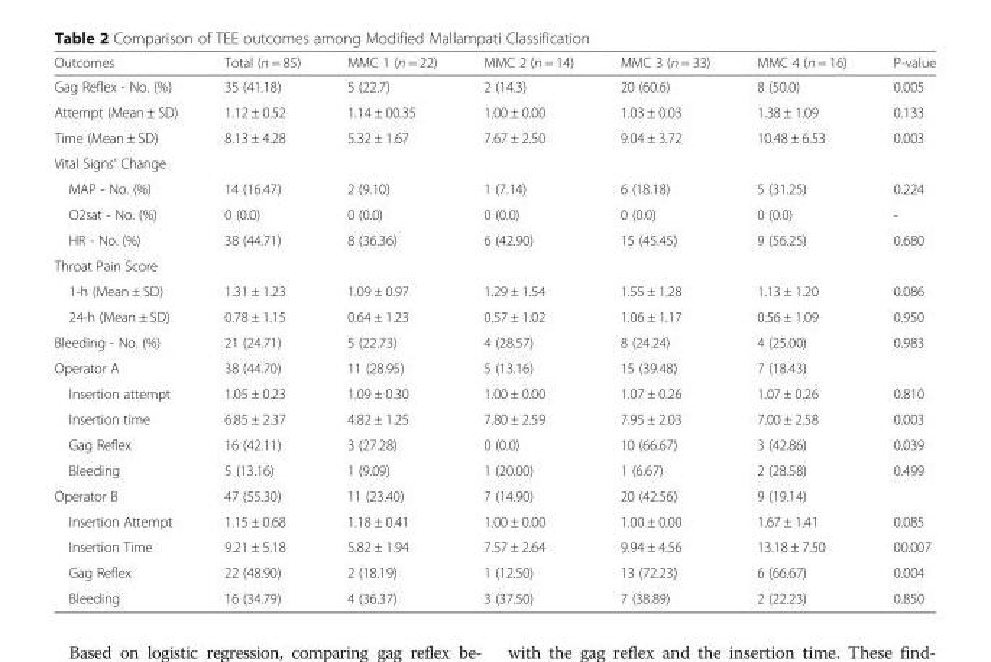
<table><thead><tr><td>Outcomes</td><td>Total (n = 85)</td><td>MMC 1 (n = 22)</td><td>MMC 2 (n = 14)</td><td>MMC 3 (n = 33)</td><td>MMC 4 (n = 16)</td><td>P-value</td></tr></thead><tbody><tr><td>Gag Reflex - No. (%)</td><td>35 (41.18)</td><td>5 (22.7)</td><td>2 (14.3)</td><td>20 (60.6)</td><td>8 (50.0)</td><td>0.005</td></tr><tr><td>Attempt (Mean ± SD)</td><td>1.12 ± 0.52</td><td>1.14 ± 00.35</td><td>1.00 ± 0.00</td><td>1.03 ± 0.03</td><td>1.38 ± 1.09</td><td>0.133</td></tr><tr><td>Time (Mean ± SD)</td><td>8.13 ± 4.28</td><td>5.32 ± 1.67</td><td>7.67 ± 2.50</td><td>9.04 ± 3.72</td><td>10.48 ± 6.53</td><td>0.003</td></tr><tr><td colspan="7">Vital Signs’ Change</td></tr><tr><td>MAP - No. (%)</td><td>14 (16.47)</td><td>2 (9.10)</td><td>1 (7.14)</td><td>6 (18.18)</td><td>5 (31.25)</td><td>0.224</td></tr><tr><td>O2sat - No. (%)</td><td>0 (0.0)</td><td>0 (0.0)</td><td>0 (0.0)</td><td>0 (0.0)</td><td>0 (0.0)</td><td>-</td></tr><tr><td>HR - No. (%)</td><td>38 (44.71)</td><td>8 (36.36)</td><td>6 (42.90)</td><td>15 (45.45)</td><td>9 (56.25)</td><td>0.680</td></tr><tr><td colspan="7">Throat Pain Score</td></tr><tr><td>1-h (Mean ± SD)</td><td>1.31 ± 1.23</td><td>1.09 ± 0.97</td><td>1.29 ± 1.54</td><td>1.55 ± 1.28</td><td>1.13 ± 1.20</td><td>0.086</td></tr><tr><td>24-h (Mean ± SD)</td><td>0.78 ± 1.15</td><td>0.64 ± 1.23</td><td>0.57 ± 1.02</td><td>1.06 ± 1.17</td><td>0.56 ± 1.09</td><td>0.950</td></tr><tr><td>Bleeding - No. (%)</td><td>21 (24.71)</td><td>5 (22.73)</td><td>4 (28.57)</td><td>8 (24.24)</td><td>4 (25.00)</td><td>0.983</td></tr><tr><td>Operator A</td><td>38 (44.70)</td><td>11 (28.95)</td><td>5 (13.16)</td><td>15 (39.48)</td><td>7 (18.43)</td><td></td></tr><tr><td>Insertion attempt</td><td>1.05 ± 0.23</td><td>1.09 ± 0.30</td><td>1.00 ± 0.00</td><td>1.07 ± 0.26</td><td>1.07 ± 0.26</td><td>0.810</td></tr><tr><td>Insertion time</td><td>6.85 ± 2.37</td><td>4.82 ± 1.25</td><td>7.80 ± 2.59</td><td>7.95 ± 2.03</td><td>7.00 ± 2.58</td><td>0.003</td></tr><tr><td>Gag Reflex</td><td>16 (42.11)</td><td>3 (27.28)</td><td>0 (0.0)</td><td>10 (66.67)</td><td>3 (42.86)</td><td>0.039</td></tr><tr><td>Bleeding</td><td>5 (13.16)</td><td>1 (9.09)</td><td>1 (20.00)</td><td>1 (6.67)</td><td>2 (28.58)</td><td>0.499</td></tr><tr><td>Operator B</td><td>47 (55.30)</td><td>11 (23.40)</td><td>7 (14.90)</td><td>20 (42.56)</td><td>9 (19.14)</td><td></td></tr><tr><td>Insertion Attempt</td><td>1.15 ± 0.68</td><td>1.18 ± 0.41</td><td>1.00 ± 0.00</td><td>1.00 ± 0.00</td><td>1.67 ± 1.41</td><td>0.085</td></tr><tr><td>Insertion Time</td><td>9.21 ± 5.18</td><td>5.82 ± 1.94</td><td>7.57 ± 2.64</td><td>9.94 ± 4.56</td><td>13.18 ± 7.50</td><td>00.007</td></tr><tr><td>Gag Reflex</td><td>22 (48.90)</td><td>2 (18.19)</td><td>1 (12.50)</td><td>13 (72.23)</td><td>6 (66.67)</td><td>0.004</td></tr><tr><td>Bleeding</td><td>16 (34.79)</td><td>4 (36.37)</td><td>3 (37.50)</td><td>7 (38.89)</td><td>2 (22.23)</td><td>0.850</td></tr></tbody></table>